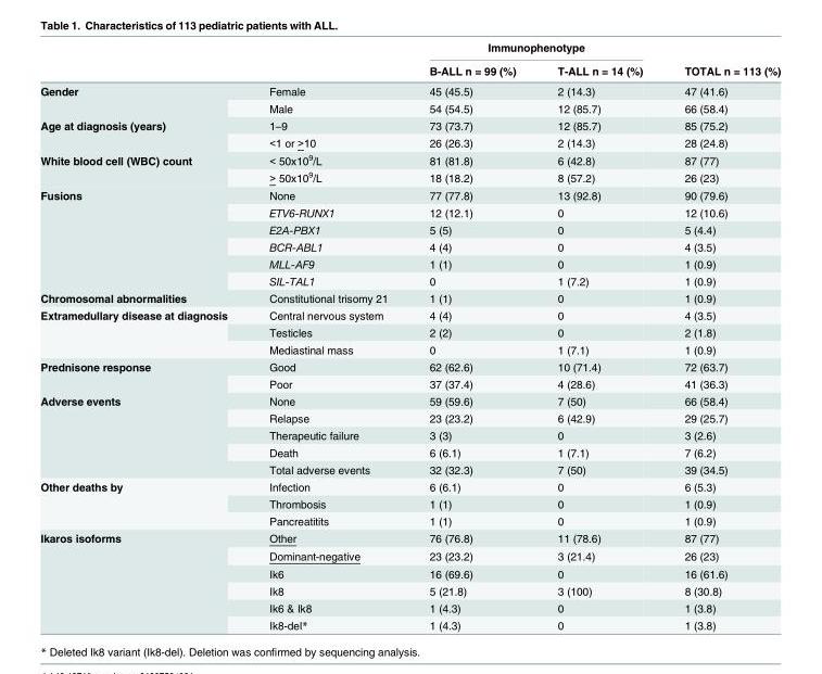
<table><thead><tr><td rowspan="2"></td><td rowspan="2"></td><td colspan="2">Immunophenotype</td><td rowspan="2">TOTAL n = 113 (%)</td></tr><tr><td>B-ALL n = 99 (%)</td><td>T-ALL n = 14 (%)</td></tr></thead><tbody><tr><td rowspan="2">Gender</td><td>Female</td><td>45 (45.5)</td><td>2 (14.3)</td><td>47 (41.6)</td></tr><tr><td>Male</td><td>54 (54.5)</td><td>12 (85.7)</td><td>66 (58.4)</td></tr><tr><td rowspan="2">Age at diagnosis (years)</td><td>1–9</td><td>73 (73.7)</td><td>12 (85.7)</td><td>85 (75.2)</td></tr><tr><td>&lt;1 or &gt;10</td><td>26 (26.3)</td><td>2 (14.3)</td><td>28 (24.8)</td></tr><tr><td rowspan="2">White blood cell (WBC) count</td><td>&lt; 50x10<sup>9</sup>/L</td><td>81 (81.8)</td><td>6 (42.8)</td><td>87 (77)</td></tr><tr><td>&gt; 50x10<sup>9</sup>/L</td><td>18 (18.2)</td><td>8 (57.2)</td><td>26 (23)</td></tr><tr><td rowspan="6">Fusions</td><td>None</td><td>77 (77.8)</td><td>13 (92.8)</td><td>90 (79.6)</td></tr><tr><td>ETV6-RUNX1</td><td>12 (12.1)</td><td>0</td><td>12 (10.6)</td></tr><tr><td>E2A-PBX1</td><td>5 (5)</td><td>0</td><td>5 (4.4)</td></tr><tr><td>BCR-ABL1</td><td>4 (4)</td><td>0</td><td>4 (3.5)</td></tr><tr><td>MLL-AF9</td><td>1 (1)</td><td>0</td><td>1 (0.9)</td></tr><tr><td>SIL-TAL1</td><td>0</td><td>1 (7.2)</td><td>1 (0.9)</td></tr><tr><td>Chromosomal abnormalities</td><td>Constitutional trisomy 21</td><td>1 (1)</td><td>0</td><td>1 (0.9)</td></tr><tr><td rowspan="3">Extramedullary disease at diagnosis</td><td>Central nervous system</td><td>4 (4)</td><td>0</td><td>4 (3.5)</td></tr><tr><td>Testicles</td><td>2 (2)</td><td>0</td><td>2 (1.8)</td></tr><tr><td>Mediastinal mass</td><td>0</td><td>1 (7.1)</td><td>1 (0.9)</td></tr><tr><td rowspan="2">Prednisone response</td><td>Good</td><td>62 (62.6)</td><td>10 (71.4)</td><td>72 (63.7)</td></tr><tr><td>Poor</td><td>37 (37.4)</td><td>4 (28.6)</td><td>41 (36.3)</td></tr><tr><td rowspan="5">Adverse events</td><td>None</td><td>59 (59.6)</td><td>7 (50)</td><td>66 (58.4)</td></tr><tr><td>Relapse</td><td>23 (23.2)</td><td>6 (42.9)</td><td>29 (25.7)</td></tr><tr><td>Therapeutic failure</td><td>3 (3)</td><td>0</td><td>3 (2.6)</td></tr><tr><td>Death</td><td>6 (6.1)</td><td>1 (7.1)</td><td>7 (6.2)</td></tr><tr><td>Total adverse events</td><td>32 (32.3)</td><td>7 (50)</td><td>39 (34.5)</td></tr><tr><td rowspan="3">Other deaths by</td><td>Infection</td><td>6 (6.1)</td><td>0</td><td>6 (5.3)</td></tr><tr><td>Thrombosis</td><td>1 (1)</td><td>0</td><td>1 (0.9)</td></tr><tr><td>Pancreatitits</td><td>1 (1)</td><td>0</td><td>1 (0.9)</td></tr><tr><td rowspan="6">Ikaros isoforms</td><td>Other</td><td>76 (76.8)</td><td>11 (78.6)</td><td>87 (77)</td></tr><tr><td>Dominant-negative</td><td>23 (23.2)</td><td>3 (21.4)</td><td>26 (23)</td></tr><tr><td>Ik6</td><td>16 (69.6)</td><td>0</td><td>16 (61.6)</td></tr><tr><td>Ik8</td><td>5 (21.8)</td><td>3 (100)</td><td>8 (30.8)</td></tr><tr><td>Ik6 &amp; Ik8</td><td>1 (4.3)</td><td>0</td><td>1 (3.8)</td></tr><tr><td>Ik8-del*</td><td>1 (4.3)</td><td>0</td><td>1 (3.8)</td></tr></tbody></table>